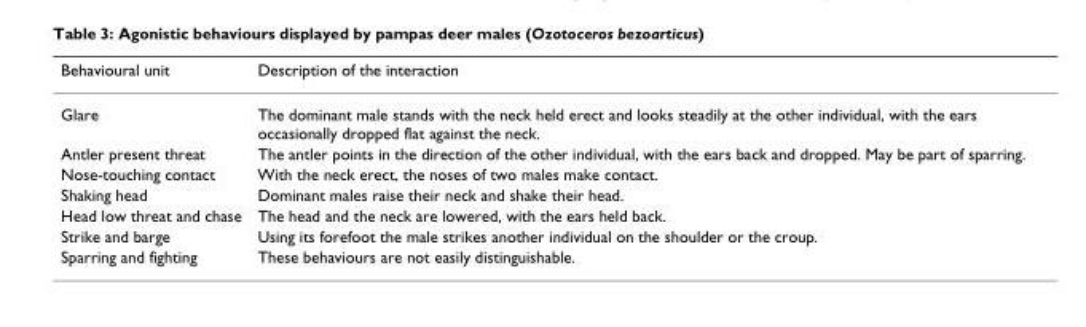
<table><thead><tr><td>Behavioural unit</td><td>Description of the interaction</td></tr></thead><tbody><tr><td>Glare</td><td>The dominant male stands with the neck held erect and looks steadily at the other individual, with the ears occasionally dropped flat against the neck.</td></tr><tr><td>Antler present threat</td><td>The antler points in the direction of the other individual, with the ears back and dropped. May be part of sparring.</td></tr><tr><td>Nose-touching contact</td><td>With the neck erect, the noses of two males make contact.</td></tr><tr><td>Shaking head</td><td>Dominant males raise their neck and shake their head.</td></tr><tr><td>Head low threat and chase</td><td>The head and the neck are lowered, with the ears held back.</td></tr><tr><td>Strike and barge</td><td>Using its forefoot the male strikes another individual on the shoulder or the croup.</td></tr><tr><td>Sparring and fighting</td><td>These behaviours are not easily distinguishable.</td></tr></tbody></table>